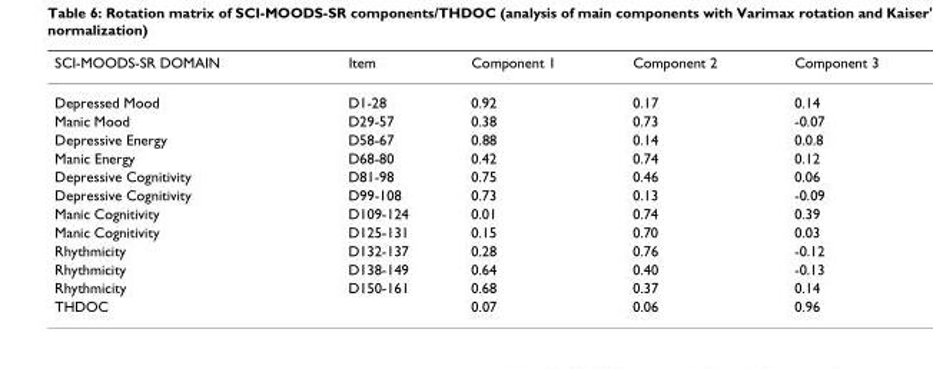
<table><thead><tr><td>SCI-MOODS-SR DOMAIN</td><td>Item</td><td>Component 1</td><td>Component 2</td><td>Component 3</td></tr></thead><tbody><tr><td>Depressed Mood</td><td>D1-28</td><td>0.92</td><td>0.17</td><td>0.14</td></tr><tr><td>Manic Mood</td><td>D29-57</td><td>0.38</td><td>0.73</td><td>-0.07</td></tr><tr><td>Depressive Energy</td><td>D58-67</td><td>0.88</td><td>0.14</td><td>0.0.8</td></tr><tr><td>Manic Energy</td><td>D68-80</td><td>0.42</td><td>0.74</td><td>0.12</td></tr><tr><td>Depressive Cognitivity</td><td>D81-98</td><td>0.75</td><td>0.46</td><td>0.06</td></tr><tr><td>Depressive Cognitivity</td><td>D99-108</td><td>0.73</td><td>0.13</td><td>-0.09</td></tr><tr><td>Manic Cognitivity</td><td>D109-124</td><td>0.01</td><td>0.74</td><td>0.39</td></tr><tr><td>Manic Cognitivity</td><td>D125-131</td><td>0.15</td><td>0.70</td><td>0.03</td></tr><tr><td>Rhythmicity</td><td>D132-137</td><td>0.28</td><td>0.76</td><td>-0.12</td></tr><tr><td>Rhythmicity</td><td>D138-149</td><td>0.64</td><td>0.40</td><td>-0.13</td></tr><tr><td>Rhythmicity</td><td>D150-161</td><td>0.68</td><td>0.37</td><td>0.14</td></tr><tr><td>THDOC</td><td></td><td>0.07</td><td>0.06</td><td>0.96</td></tr></tbody></table>